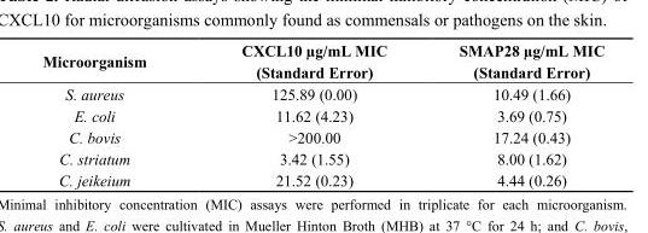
<table><thead><tr><td>Microorganism</td><td>CXCL10 µg/mL MIC (Standard Error)</td><td>SMAP28 µg/mL MIC (Standard Error)</td></tr></thead><tbody><tr><td>S. aureus</td><td>125.89 (0.00)</td><td>10.49 (1.66)</td></tr><tr><td>E. coli</td><td>11.62 (4.23)</td><td>3.69 (0.75)</td></tr><tr><td>C. bovis</td><td>&gt;200.00</td><td>17.24 (0.43)</td></tr><tr><td>C. striatum</td><td>3.42 (1.55)</td><td>8.00 (1.62)</td></tr><tr><td>C. jeikeium</td><td>21.52 (0.23)</td><td>4.44 (0.26)</td></tr></tbody></table>